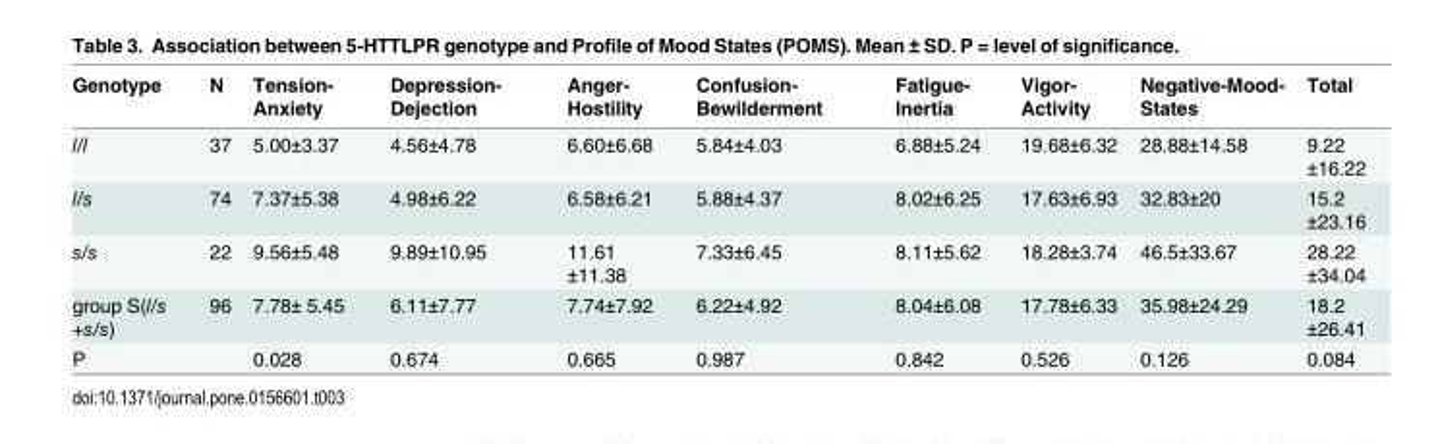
<table><thead><tr><td>Genotype</td><td>N</td><td>Tension- Anxiety</td><td>Depression- Dejection</td><td>Anger- Hostility</td><td>Confusion- Bewilderment</td><td>Fatigue- Inertia</td><td>Vigor- Activity</td><td>Negative-Mood- States</td><td>Total</td></tr></thead><tbody><tr><td>l/l</td><td>37</td><td>5.00±3.37</td><td>4.56±4.78</td><td>6.60±6.68</td><td>5.84±4.03</td><td>6.88±5.24</td><td>19.68±6.32</td><td>28.88±14.58</td><td>9.22 ±16.22</td></tr><tr><td>l/s</td><td>74</td><td>7.37±5.38</td><td>4.98±6.22</td><td>6.58±6.21</td><td>5.88±4.37</td><td>8.02±6.25</td><td>17.63±6.93</td><td>32.83±20</td><td>15.2 ±23.16</td></tr><tr><td>s/s</td><td>22</td><td>9.56±5.48</td><td>9.89±10.95</td><td>11.61 ±11.38</td><td>7.33±6.45</td><td>8.11±5.62</td><td>18.28±3.74</td><td>46.5±33.67</td><td>28.22 ±34.04</td></tr><tr><td>group S(l/s +s/s)</td><td>96</td><td>7.78± 5.45</td><td>6.11±7.77</td><td>7.74±7.92</td><td>6.22±4.92</td><td>8.04±6.08</td><td>17.78±6.33</td><td>35.98±24.29</td><td>18.2 ±26.41</td></tr><tr><td>P</td><td></td><td>0.028</td><td>0.674</td><td>0.665</td><td>0.987</td><td>0.842</td><td>0.526</td><td>0.126</td><td>0.084</td></tr></tbody></table>